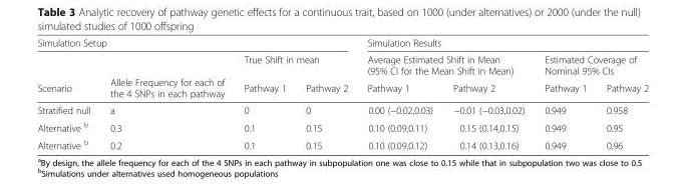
<table><thead><tr><td colspan="4">Simulation Setup</td><td colspan="4">Simulation Results</td></tr><tr><td rowspan="2">Scenario</td><td rowspan="2">Allele Frequency for each of the 4 SNPs in each pathway</td><td colspan="2">True Shift in mean</td><td colspan="2">Average Estimated Shift in Mean (95% CI for the Mean Shift in Mean)</td><td colspan="2">Estimated Coverage of Nominal 95% CIs</td></tr><tr><td>Pathway 1</td><td>Pathway 2</td><td>Pathway 1</td><td>Pathway 2</td><td>Pathway 1</td><td>Pathway 2</td></tr></thead><tbody><tr><td>Stratified null</td><td>a</td><td>0</td><td>0</td><td>0.00 (−0.02,0.03)</td><td>−0.01 (−0.03,0.02)</td><td>0.949</td><td>0.958</td></tr><tr><td>Alternative <sup>b</sup></td><td>0.3</td><td>0.1</td><td>0.15</td><td>0.10 (0.09,0.11)</td><td>0.15 (0.14,0.15)</td><td>0.949</td><td>0.95</td></tr><tr><td>Alternative <sup>b</sup></td><td>0.2</td><td>0.1</td><td>0.15</td><td>0.10 (0.09,0.12)</td><td>0.14 (0.13,0.16)</td><td>0.949</td><td>0.96</td></tr></tbody></table>